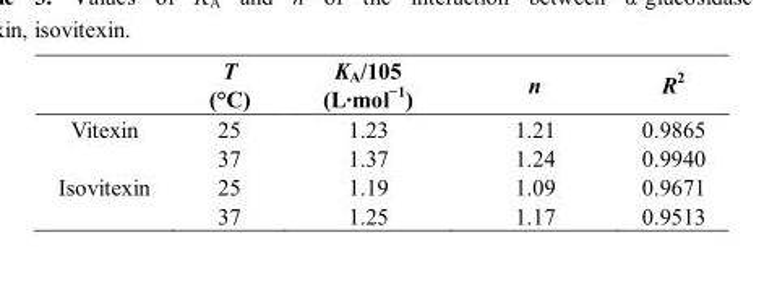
<table><thead><tr><td></td><td>T (°C)</td><td>K<sub>A</sub>/105 (L·mol<sup>−1</sup>)</td><td>n</td><td>R<sup>2</sup></td></tr></thead><tbody><tr><td rowspan="2">Vitexin</td><td>25</td><td>1.23</td><td>1.21</td><td>0.9865</td></tr><tr><td>37</td><td>1.37</td><td>1.24</td><td>0.9940</td></tr><tr><td rowspan="2">Isovitexin</td><td>25</td><td>1.19</td><td>1.09</td><td>0.9671</td></tr><tr><td>37</td><td>1.25</td><td>1.17</td><td>0.9513</td></tr></tbody></table>